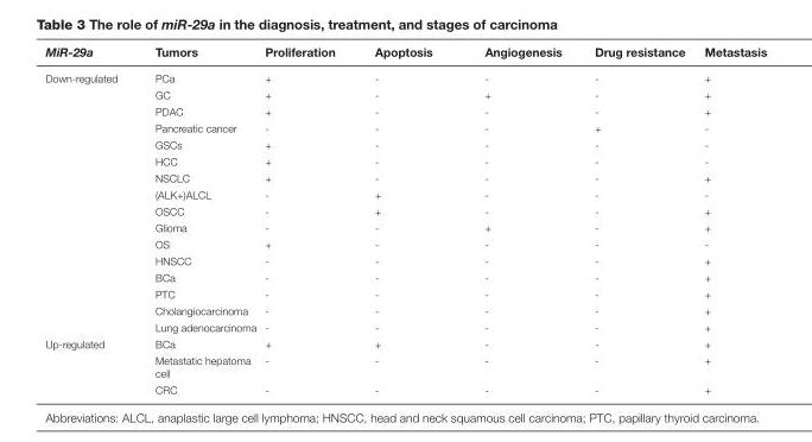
<table><thead><tr><td>MiR-29a</td><td>Tumors</td><td>Proliferation</td><td>Apoptosis</td><td>Angiogenesis</td><td>Drug resistance</td><td>Metastasis</td></tr></thead><tbody><tr><td rowspan="16">Down-regulated</td><td>PCa</td><td>+</td><td>-</td><td>-</td><td>-</td><td>+</td></tr><tr><td>GC</td><td>+</td><td>-</td><td>+</td><td>-</td><td>+</td></tr><tr><td>PDAC</td><td>+</td><td>-</td><td>-</td><td>-</td><td>+</td></tr><tr><td>Pancreatic cancer</td><td>-</td><td>-</td><td>-</td><td>+</td><td>-</td></tr><tr><td>GSCs</td><td>+</td><td>-</td><td>-</td><td>-</td><td>-</td></tr><tr><td>HCC</td><td>+</td><td>-</td><td>-</td><td>-</td><td>-</td></tr><tr><td>NSCLC</td><td>+</td><td>-</td><td>-</td><td>-</td><td>+</td></tr><tr><td>(ALK+)ALCL</td><td>-</td><td>+</td><td>-</td><td>-</td><td>-</td></tr><tr><td>OSCC</td><td>-</td><td>+</td><td>-</td><td>-</td><td>+</td></tr><tr><td>Glioma</td><td>-</td><td>-</td><td>+</td><td>-</td><td>+</td></tr><tr><td>OS</td><td>+</td><td>-</td><td>-</td><td>-</td><td>-</td></tr><tr><td>HNSCC</td><td>-</td><td>-</td><td>-</td><td>-</td><td>+</td></tr><tr><td>BCa</td><td>-</td><td>-</td><td>-</td><td>-</td><td>+</td></tr><tr><td>PTC</td><td>-</td><td>-</td><td>-</td><td>-</td><td>+</td></tr><tr><td>Cholangiocarcinoma</td><td>-</td><td>-</td><td>-</td><td>-</td><td>+</td></tr><tr><td>Lung adenocarcinoma</td><td>-</td><td>-</td><td>-</td><td>-</td><td>+</td></tr><tr><td rowspan="3">Up-regulated</td><td>BCa</td><td>+</td><td>+</td><td>-</td><td>-</td><td>+</td></tr><tr><td>Metastatic hepatoma cell</td><td>-</td><td>-</td><td>-</td><td>-</td><td>+</td></tr><tr><td>CRC</td><td>-</td><td>-</td><td>-</td><td>-</td><td>+</td></tr></tbody></table>